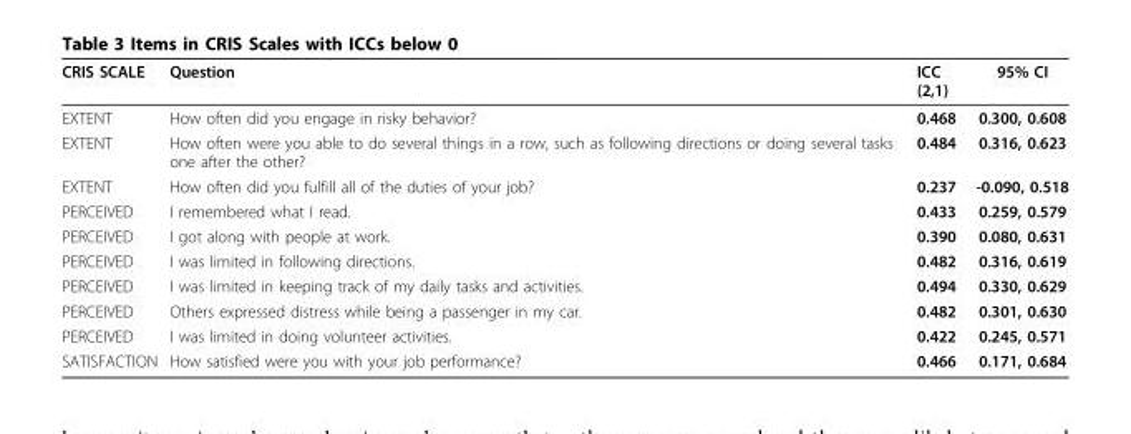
<table><thead><tr><td>CRIS SCALE</td><td>Question</td><td>ICC (2,1)</td><td>95% CI</td></tr></thead><tbody><tr><td>EXTENT</td><td>How often did you engage in risky behavior?</td><td>0.468</td><td>0.300, 0.608</td></tr><tr><td>EXTENT</td><td>How often were you able to do several things in a row, such as following directions or doing several tasks one after the other?</td><td>0.484</td><td>0.316, 0.623</td></tr><tr><td>EXTENT</td><td>How often did you fulfill all of the duties of your job?</td><td>0.237</td><td>-0.090, 0.518</td></tr><tr><td>PERCEIVED</td><td>I remembered what I read.</td><td>0.433</td><td>0.259, 0.579</td></tr><tr><td>PERCEIVED</td><td>I got along with people at work.</td><td>0.390</td><td>0.080, 0.631</td></tr><tr><td>PERCEIVED</td><td>I was limited in following directions.</td><td>0.482</td><td>0.316, 0.619</td></tr><tr><td>PERCEIVED</td><td>I was limited in keeping track of my daily tasks and activities.</td><td>0.494</td><td>0.330, 0.629</td></tr><tr><td>PERCEIVED</td><td>Others expressed distress while being a passenger in my car.</td><td>0.482</td><td>0.301, 0.630</td></tr><tr><td>PERCEIVED</td><td>I was limited in doing volunteer activities.</td><td>0.422</td><td>0.245, 0.571</td></tr><tr><td>SATISFACTION</td><td>How satisfied were you with your job performance?</td><td>0.466</td><td>0.171, 0.684</td></tr></tbody></table>